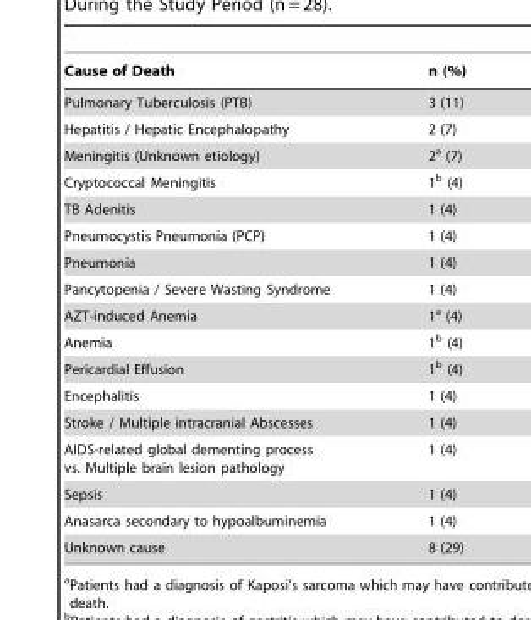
<table><thead><tr><td>Cause of Death</td><td>n (%)</td></tr></thead><tbody><tr><td>Pulmonary Tuberculosis (PTB)</td><td>3 (11)</td></tr><tr><td>Hepatitis / Hepatic Encephalopathy</td><td>2 (7)</td></tr><tr><td>Meningitis (Unknown etiology)</td><td>2<sup>a</sup> (7)</td></tr><tr><td>Cryptococcal Meningitis</td><td>1<sup>b</sup> (4)</td></tr><tr><td>TB Adenitis</td><td>1 (4)</td></tr><tr><td>Pneumocystis Pneumonia (PCP)</td><td>1 (4)</td></tr><tr><td>Pneumonia</td><td>1 (4)</td></tr><tr><td>Pancytopenia / Severe Wasting Syndrome</td><td>1 (4)</td></tr><tr><td>AZT-induced Anemia</td><td>1<sup>a</sup> (4)</td></tr><tr><td>Anemia</td><td>1<sup>b</sup> (4)</td></tr><tr><td>Pericardial Effusion</td><td>1<sup>b</sup> (4)</td></tr><tr><td>Encephalitis</td><td>1 (4)</td></tr><tr><td>Stroke / Multiple intracranial Abscesses</td><td>1 (4)</td></tr><tr><td>AIDS-related global dementing process vs. Multiple brain lesion pathology</td><td>1 (4)</td></tr><tr><td>Sepsis</td><td>1 (4)</td></tr><tr><td>Anasarca secondary to hypoalbuminemia</td><td>1 (4)</td></tr><tr><td>Unknown cause</td><td>8 (29)</td></tr></tbody></table>